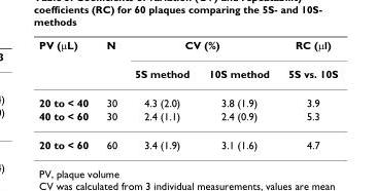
<table><thead><tr><td rowspan="2">PV (μL)</td><td rowspan="2">N</td><td colspan="2">CV (%)</td><td rowspan="2">RC (μl) 5S vs. 10S</td></tr><tr><td>5S method</td><td>10S method</td></tr></thead><tbody><tr><td>20 to &lt; 40</td><td>30</td><td>4.3 (2.0)</td><td>3.8 (1.9)</td><td>3.9</td></tr><tr><td>40 to &lt; 60</td><td>30</td><td>2.4 (1.1)</td><td>2.4 (0.9)</td><td>5.3</td></tr><tr><td>20 to &lt; 60</td><td>60</td><td>3.4 (1.9)</td><td>3.1 (1.6)</td><td>4.7</td></tr></tbody></table>